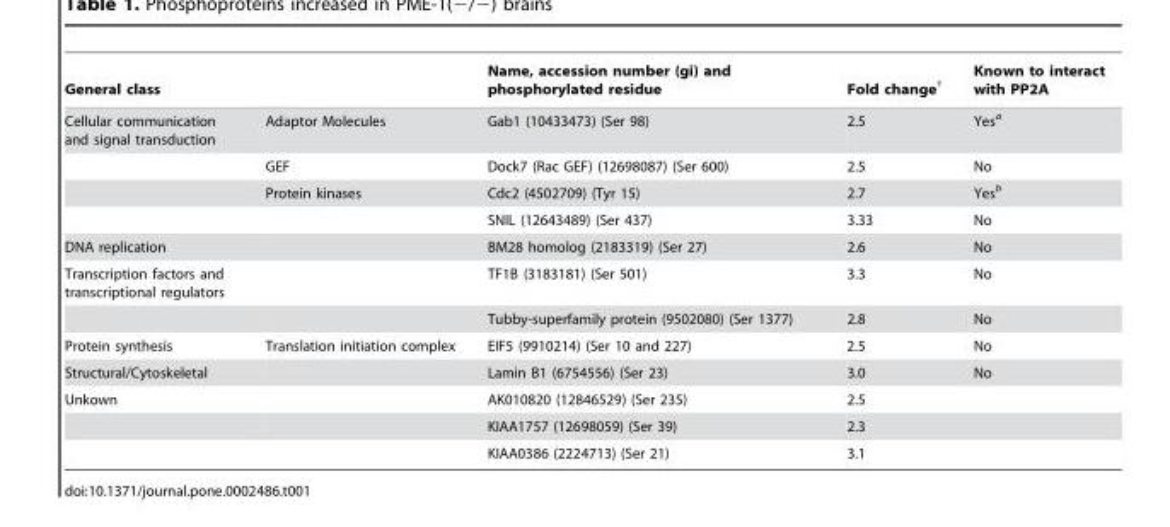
<table><thead><tr><td>General class</td><td></td><td>Name, accession number (gi) and phosphorylated residue</td><td>Fold change<sup>†</sup></td><td>Known to interact with PP2A</td></tr></thead><tbody><tr><td rowspan="4">Cellular communication and signal transduction</td><td>Adaptor Molecules</td><td>Gab1 (10433473) (Ser 98)</td><td>2.5</td><td>Yes<sup>a</sup></td></tr><tr><td>GEF</td><td>Dock7 (Rac GEF) (12698087) (Ser 600)</td><td>2.5</td><td>No</td></tr><tr><td>Protein kinases</td><td>Cdc2 (4502709) (Tyr 15)</td><td>2.7</td><td>Yes<sup>b</sup></td></tr><tr><td></td><td>SNIL (12643489) (Ser 437)</td><td>3.33</td><td>No</td></tr><tr><td>DNA replication</td><td></td><td>BM28 homolog (2183319) (Ser 27)</td><td>2.6</td><td>No</td></tr><tr><td rowspan="2">Transcription factors and transcriptional regulators</td><td></td><td>TF1B (3183181) (Ser 501)</td><td>3.3</td><td>No</td></tr><tr><td></td><td>Tubby-superfamily protein (9502080) (Ser 1377)</td><td>2.8</td><td>No</td></tr><tr><td>Protein synthesis</td><td>Translation initiation complex</td><td>EIF5 (9910214) (Ser 10 and 227)</td><td>2.5</td><td>No</td></tr><tr><td>Structural/Cytoskeletal</td><td></td><td>Lamin B1 (6754556) (Ser 23)</td><td>3.0</td><td>No</td></tr><tr><td rowspan="3">Unkown</td><td></td><td>AK010820 (12846529) (Ser 235)</td><td>2.5</td><td></td></tr><tr><td></td><td>KIAA1757 (12698059) (Ser 39)</td><td>2.3</td><td></td></tr><tr><td></td><td>KIAA0386 (2224713) (Ser 21)</td><td>3.1</td><td></td></tr></tbody></table>